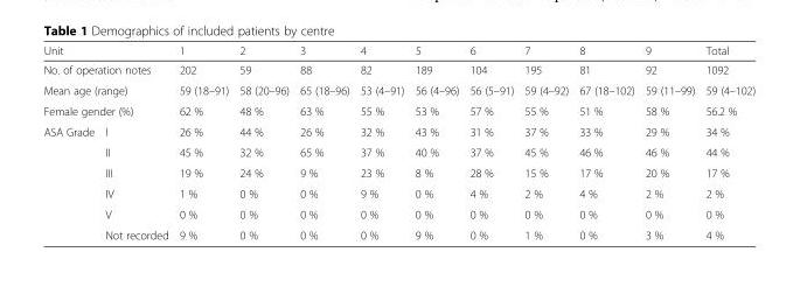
<table><thead><tr><td colspan="2">Unit</td><td>1</td><td>2</td><td>3</td><td>4</td><td>5</td><td>6</td><td>7</td><td>8</td><td>9</td><td>Total</td></tr></thead><tbody><tr><td colspan="2">No. of operation notes</td><td>202</td><td>59</td><td>88</td><td>82</td><td>189</td><td>104</td><td>195</td><td>81</td><td>92</td><td>1092</td></tr><tr><td colspan="2">Mean age (range)</td><td>59 (18–91)</td><td>58 (20–96)</td><td>65 (18–96)</td><td>53 (4–91)</td><td>56 (4–96)</td><td>56 (5–91)</td><td>59 (4–92)</td><td>67 (18–102)</td><td>59 (11–99)</td><td>59 (4–102)</td></tr><tr><td colspan="2">Female gender (%)</td><td>62 %</td><td>48 %</td><td>63 %</td><td>55 %</td><td>53 %</td><td>57 %</td><td>55 %</td><td>51 %</td><td>58 %</td><td>56.2 %</td></tr><tr><td rowspan="6">ASA Grade</td><td>I</td><td>26 %</td><td>44 %</td><td>26 %</td><td>32 %</td><td>43 %</td><td>31 %</td><td>37 %</td><td>33 %</td><td>29 %</td><td>34 %</td></tr><tr><td>II</td><td>45 %</td><td>32 %</td><td>65 %</td><td>37 %</td><td>40 %</td><td>37 %</td><td>45 %</td><td>46 %</td><td>46 %</td><td>44 %</td></tr><tr><td>III</td><td>19 %</td><td>24 %</td><td>9 %</td><td>23 %</td><td>8 %</td><td>28 %</td><td>15 %</td><td>17 %</td><td>20 %</td><td>17 %</td></tr><tr><td>IV</td><td>1 %</td><td>0 %</td><td>0 %</td><td>9 %</td><td>0 %</td><td>4 %</td><td>2 %</td><td>4 %</td><td>2 %</td><td>2 %</td></tr><tr><td>V</td><td>0 %</td><td>0 %</td><td>0 %</td><td>0 %</td><td>0 %</td><td>0 %</td><td>0 %</td><td>0 %</td><td>0 %</td><td>0 %</td></tr><tr><td>Not recorded</td><td>9 %</td><td>0 %</td><td>0 %</td><td>0 %</td><td>9 %</td><td>0 %</td><td>1 %</td><td>0 %</td><td>3 %</td><td>4 %</td></tr></tbody></table>